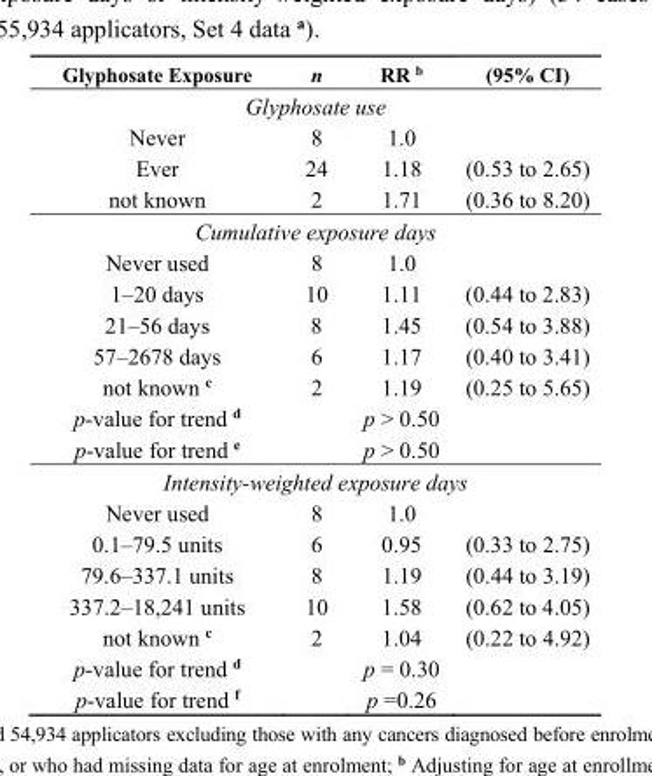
<table><thead><tr><td>Glyphosate Exposure</td><td>n</td><td>RR <sup>b</sup></td><td>(95% CI)</td></tr></thead><tbody><tr><td colspan="4">Glyphosate use</td></tr><tr><td>Never</td><td>8</td><td>1.0</td><td></td></tr><tr><td>Ever</td><td>24</td><td>1.18</td><td>(0.53 to 2.65)</td></tr><tr><td>not known</td><td>2</td><td>1.71</td><td>(0.36 to 8.20)</td></tr><tr><td colspan="4">Cumulative exposure days</td></tr><tr><td>Never used</td><td>8</td><td>1.0</td><td></td></tr><tr><td>1–20 days</td><td>10</td><td>1.11</td><td>(0.44 to 2.83)</td></tr><tr><td>21–56 days</td><td>8</td><td>1.45</td><td>(0.54 to 3.88)</td></tr><tr><td>57–2678 days</td><td>6</td><td>1.17</td><td>(0.40 to 3.41)</td></tr><tr><td>not known <sup>c</sup></td><td>2</td><td>1.19</td><td>(0.25 to 5.65)</td></tr><tr><td>p-value for trend <sup>d</sup></td><td></td><td>p &gt; 0.50</td><td></td></tr><tr><td>p-value for trend <sup>e</sup></td><td></td><td>p &gt; 0.50</td><td></td></tr><tr><td colspan="4">Intensity-weighted exposure days</td></tr><tr><td>Never used</td><td>8</td><td>1.0</td><td></td></tr><tr><td>0.1–79.5 units</td><td>6</td><td>0.95</td><td>(0.33 to 2.75)</td></tr><tr><td>79.6–337.1 units</td><td>8</td><td>1.19</td><td>(0.44 to 3.19)</td></tr><tr><td>337.2–18,241 units</td><td>10</td><td>1.58</td><td>(0.62 to 4.05)</td></tr><tr><td>not known <sup>c</sup></td><td>2</td><td>1.04</td><td>(0.22 to 4.92)</td></tr><tr><td>p-value for trend <sup>d</sup></td><td></td><td>p = 0.30</td><td></td></tr><tr><td>p-value for trend <sup>f</sup></td><td></td><td>p =0.26</td><td></td></tr></tbody></table>